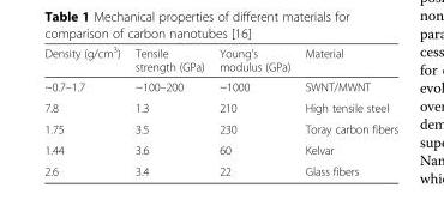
<table><thead><tr><td>Density (g/cm<sup>3</sup>)</td><td>Tensile strength (GPa)</td><td>Young’s modulus (GPa)</td><td>Material</td></tr></thead><tbody><tr><td>~0.7–1.7</td><td>~100–200</td><td>~1000</td><td>SWNT/MWNT</td></tr><tr><td>7.8</td><td>1.3</td><td>210</td><td>High tensile steel</td></tr><tr><td>1.75</td><td>3.5</td><td>230</td><td>Toray carbon fibers</td></tr><tr><td>1.44</td><td>3.6</td><td>60</td><td>Kelvar</td></tr><tr><td>2.6</td><td>3.4</td><td>22</td><td>Glass fibers</td></tr></tbody></table>